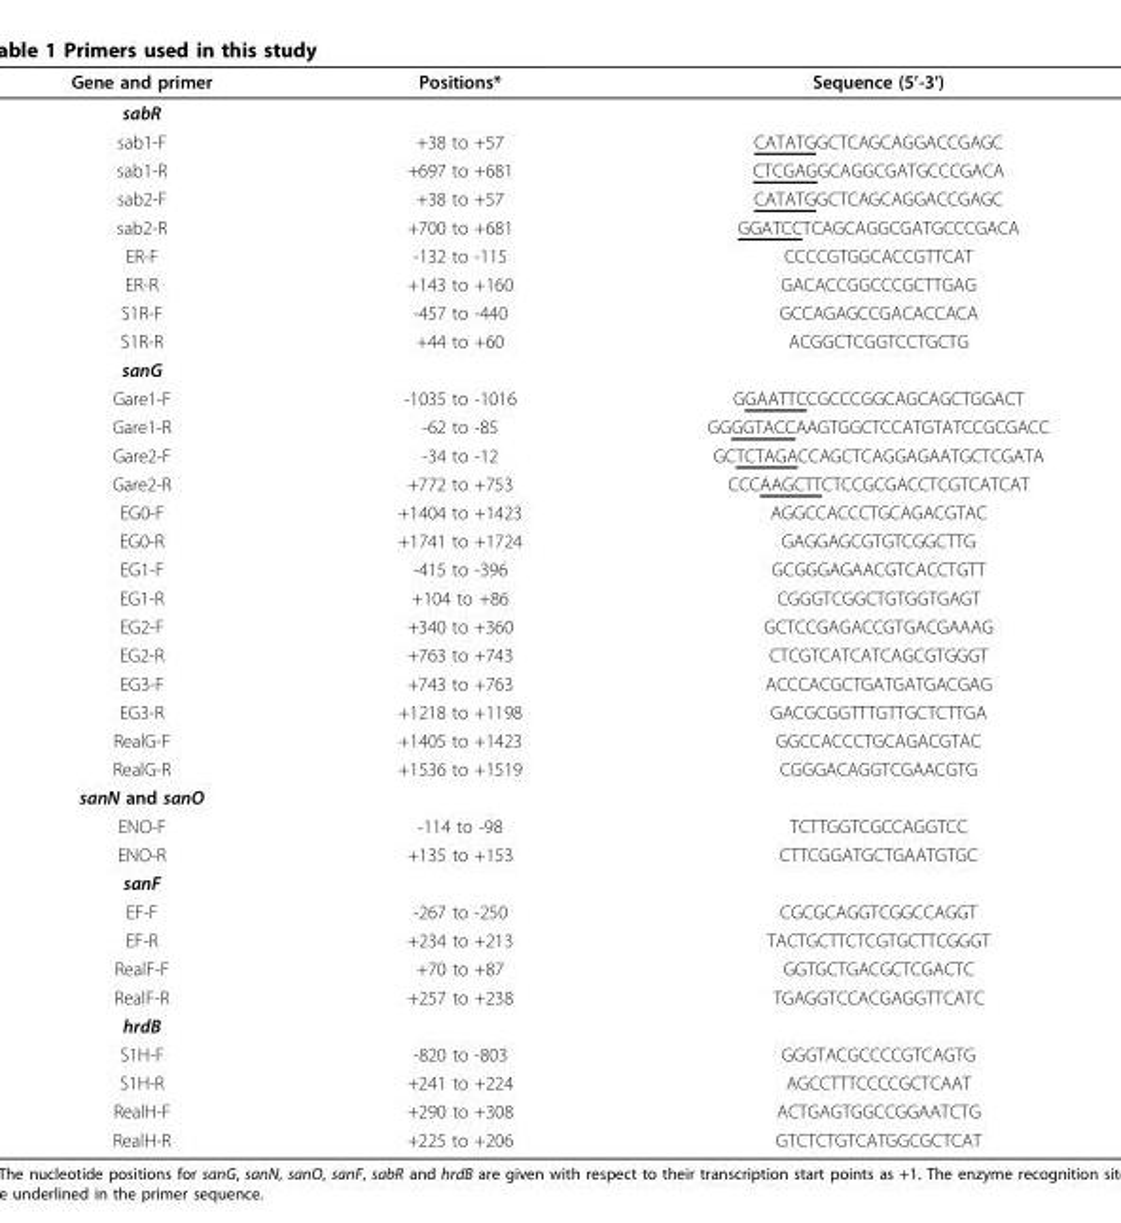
<table><thead><tr><td>Gene and primer</td><td>Positions*</td><td>Sequence (5’-3’)</td></tr></thead><tbody><tr><td colspan="3">sabR</td></tr><tr><td>sab1-F</td><td>+38 to +57</td><td>CATATGGCTCAGCAGGACCGAGC</td></tr><tr><td>sab1-R</td><td>+697 to +681</td><td>CTCGAGGCAGGCGATGCCCGACA</td></tr><tr><td>sab2-F</td><td>+38 to +57</td><td>CATATGGCTCAGCAGGACCGAGC</td></tr><tr><td>sab2-R</td><td>+700 to +681</td><td>GGATCCTCAGCAGGCGATGCCCGACA</td></tr><tr><td>ER-F</td><td>-132 to -115</td><td>CCCCGTGGCACCGTTCAT</td></tr><tr><td>ER-R</td><td>+143 to +160</td><td>GACACCGGCCCGCTTGAG</td></tr><tr><td>S1R-F</td><td>-457 to -440</td><td>GCCAGAGCCGACACCACA</td></tr><tr><td>S1R-R</td><td>+44 to +60</td><td>ACGGCTCGGTCCTGCTG</td></tr><tr><td colspan="3">sanG</td></tr><tr><td>Gare1-F</td><td>-1035 to -1016</td><td>GGAATTCCGCCCGGCAGCAGCTGGACT</td></tr><tr><td>Gare1-R</td><td>-62 to -85</td><td>GGGGTACCAAGTGGCTCCATGTATCCGCGACC</td></tr><tr><td>Gare2-F</td><td>-34 to -12</td><td>GCTCTAGACCAGCTCAGGAGAATGCTCGATA</td></tr><tr><td>Gare2-R</td><td>+772 to +753</td><td>CCCAAGCTTCTCCGCGACCTCGTCATCAT</td></tr><tr><td>EG0-F</td><td>+1404 to +1423</td><td>AGGCCACCCTGCAGACGTAC</td></tr><tr><td>EG0-R</td><td>+1741 to +1724</td><td>GAGGAGCGTGTCGGCTTG</td></tr><tr><td>EG1-F</td><td>-415 to -396</td><td>GCGGGAGAACGTCACCTGTT</td></tr><tr><td>EG1-R</td><td>+104 to +86</td><td>CGGGTCGGCTGTGGTGAGT</td></tr><tr><td>EG2-F</td><td>+340 to +360</td><td>GCTCCGAGACCGTGACGAAAG</td></tr><tr><td>EG2-R</td><td>+763 to +743</td><td>CTCGTCATCATCAGCGTGGGT</td></tr><tr><td>EG3-F</td><td>+743 to +763</td><td>ACCCACGCTGATGATGACGAG</td></tr><tr><td>EG3-R</td><td>+1218 to +1198</td><td>GACGCGGTTTGTTGCTCTTGA</td></tr><tr><td>RealG-F</td><td>+1405 to +1423</td><td>GGCCACCCTGCAGACGTAC</td></tr><tr><td>RealG-R</td><td>+1536 to +1519</td><td>CGGGACAGGTCGAACGTG</td></tr><tr><td colspan="3">sanN and sanO</td></tr><tr><td>ENO-F</td><td>-114 to -98</td><td>TCTTGGTCGCCAGGTCC</td></tr><tr><td>ENO-R</td><td>+135 to +153</td><td>CTTCGGATGCTGAATGTGC</td></tr><tr><td colspan="3">sanF</td></tr><tr><td>EF-F</td><td>-267 to -250</td><td>CGCGCAGGTCGGCCAGGT</td></tr><tr><td>EF-R</td><td>+234 to +213</td><td>TACTGCTTCTCGTGCTTCGGGT</td></tr><tr><td>RealF-F</td><td>+70 to +87</td><td>GGTGCTGACGCTCGACTC</td></tr><tr><td>RealF-R</td><td>+257 to +238</td><td>TGAGGTCCACGAGGTTCATC</td></tr><tr><td colspan="3">hrdB</td></tr><tr><td>S1H-F</td><td>-820 to -803</td><td>GGGTACGCCCCGTCAGTG</td></tr><tr><td>S1H-R</td><td>+241 to +224</td><td>AGCCTTTCCCCGCTCAAT</td></tr><tr><td>RealH-F</td><td>+290 to +308</td><td>ACTGAGTGGCCGGAATCTG</td></tr><tr><td>RealH-R</td><td>+225 to +206</td><td>GTCTCTGTCATGGCGCTCAT</td></tr></tbody></table>